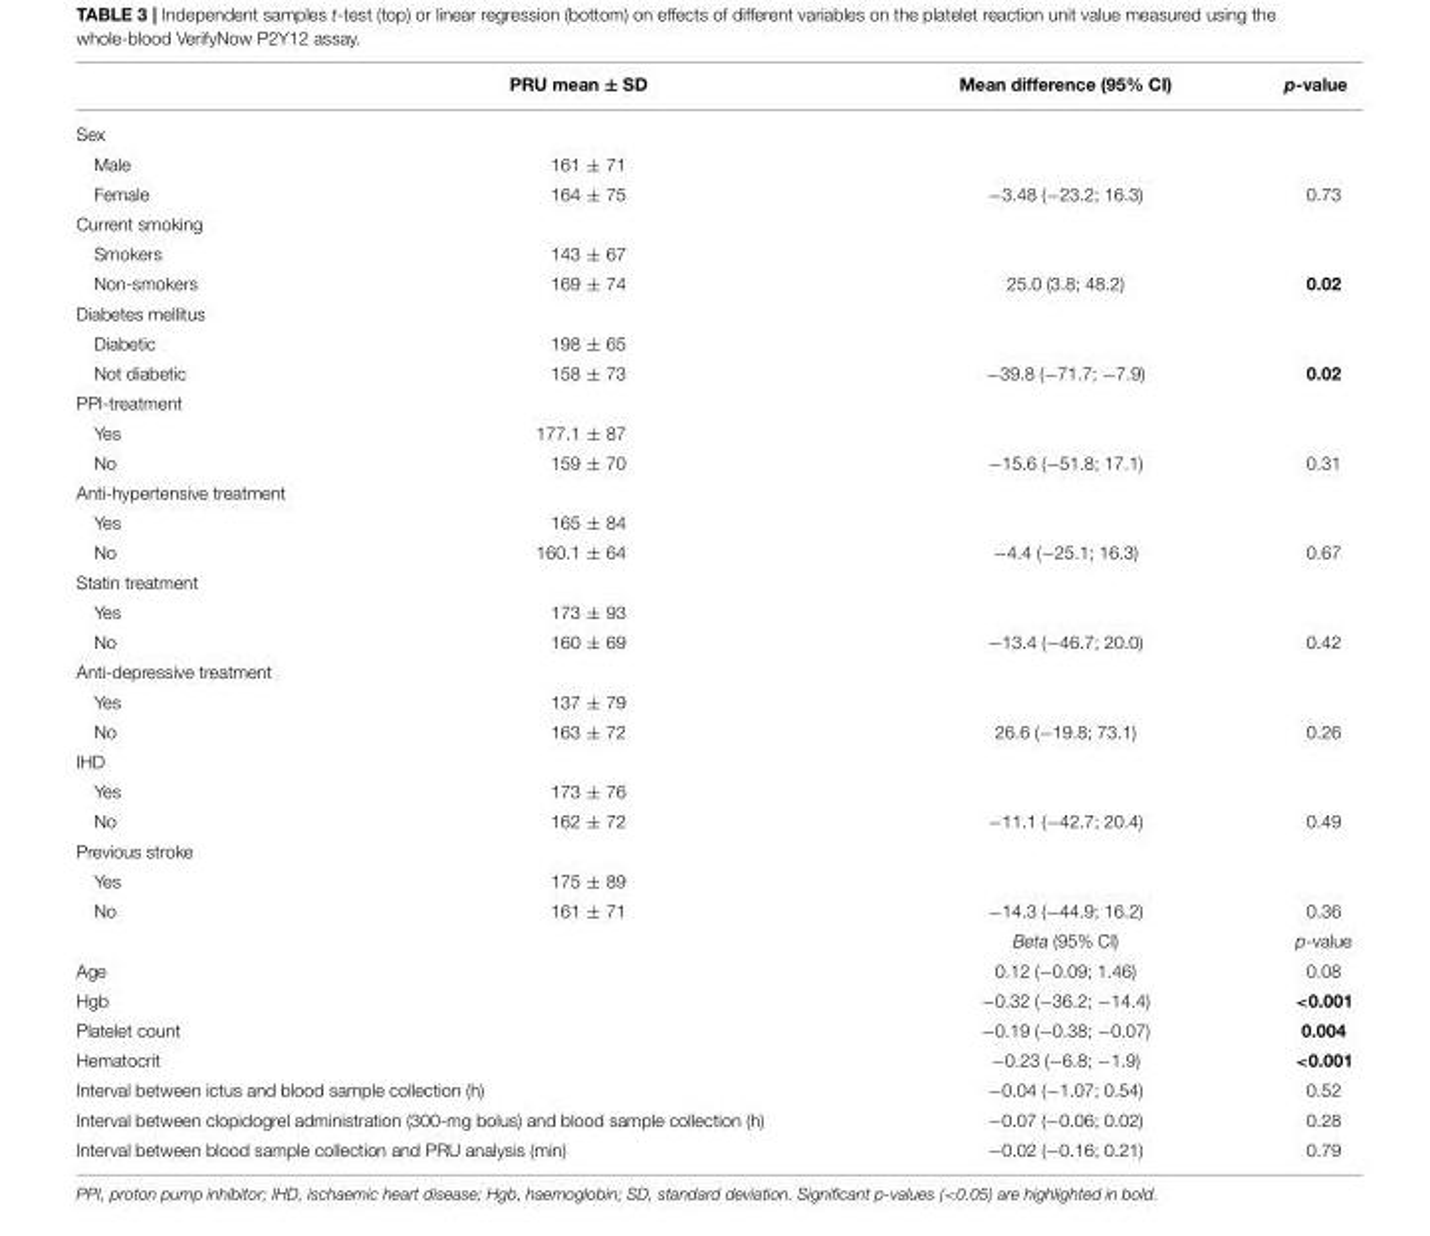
<table><thead><tr><td></td><td>PRU mean ± SD</td><td>Mean difference (95% CI)</td><td>p-value</td></tr></thead><tbody><tr><td colspan="4">Sex</td></tr><tr><td>Male</td><td>161 ± 71</td><td></td><td></td></tr><tr><td>Female</td><td>164 ± 75</td><td>−3.48 (−23.2; 16.3)</td><td>0.73</td></tr><tr><td colspan="4">Current smoking</td></tr><tr><td>Smokers</td><td>143 ± 67</td><td></td><td></td></tr><tr><td>Non-smokers</td><td>169 ± 74</td><td>25.0 (3.8; 48.2)</td><td>0.02</td></tr><tr><td colspan="4">Diabetes mellitus</td></tr><tr><td>Diabetic</td><td>198 ± 65</td><td></td><td></td></tr><tr><td>Not diabetic</td><td>158 ± 73</td><td>−39.8 (−71.7; −7.9)</td><td>0.02</td></tr><tr><td colspan="4">PPI-treatment</td></tr><tr><td>Yes</td><td>177.1 ± 87</td><td></td><td></td></tr><tr><td>No</td><td>159 ± 70</td><td>−15.6 (−51.8; 17.1)</td><td>0.31</td></tr><tr><td colspan="4">Anti-hypertensive treatment</td></tr><tr><td>Yes</td><td>165 ± 84</td><td></td><td></td></tr><tr><td>No</td><td>160.1 ± 64</td><td>−4.4 (−25.1; 16.3)</td><td>0.67</td></tr><tr><td colspan="4">Statin treatment</td></tr><tr><td>Yes</td><td>173 ± 93</td><td></td><td></td></tr><tr><td>No</td><td>160 ± 69</td><td>−13.4 (−46.7; 20.0)</td><td>0.42</td></tr><tr><td colspan="4">Anti-depressive treatment</td></tr><tr><td>Yes</td><td>137 ± 79</td><td></td><td></td></tr><tr><td>No</td><td>163 ± 72</td><td>26.6 (−19.8; 73.1)</td><td>0.26</td></tr><tr><td colspan="4">IHD</td></tr><tr><td>Yes</td><td>173 ± 76</td><td></td><td></td></tr><tr><td>No</td><td>162 ± 72</td><td>−11.1 (−42.7; 20.4)</td><td>0.49</td></tr><tr><td colspan="4">Previous stroke</td></tr><tr><td>Yes</td><td>175 ± 89</td><td></td><td></td></tr><tr><td rowspan="2">No</td><td>161 ± 71</td><td>−14.3 (−44.9; 16.2)</td><td>0.36</td></tr><tr><td></td><td>Beta (95% CI)</td><td>p-value</td></tr><tr><td>Age</td><td></td><td>0.12 (−0.09; 1.46)</td><td>0.08</td></tr><tr><td>Hgb</td><td></td><td>−0.32 (−36.2; −14.4)</td><td>&lt;0.001</td></tr><tr><td colspan="2">Platelet count</td><td>−0.19 (−0.38; −0.07)</td><td>0.004</td></tr><tr><td colspan="2">Hematocrit</td><td>−0.23 (−6.8; −1.9)</td><td>&lt;0.001</td></tr><tr><td colspan="2">Interval between ictus and blood sample collection (h)</td><td>−0.04 (−1.07; 0.54)</td><td>0.52</td></tr><tr><td colspan="2">Interval between clopidogrel administration (300-mg bolus) and blood sample collection (h)</td><td>−0.07 (−0.06; 0.02)</td><td>0.28</td></tr><tr><td colspan="2">Interval between blood sample collection and PRU analysis (min)</td><td>−0.02 (−0.16; 0.21)</td><td>0.79</td></tr></tbody></table>